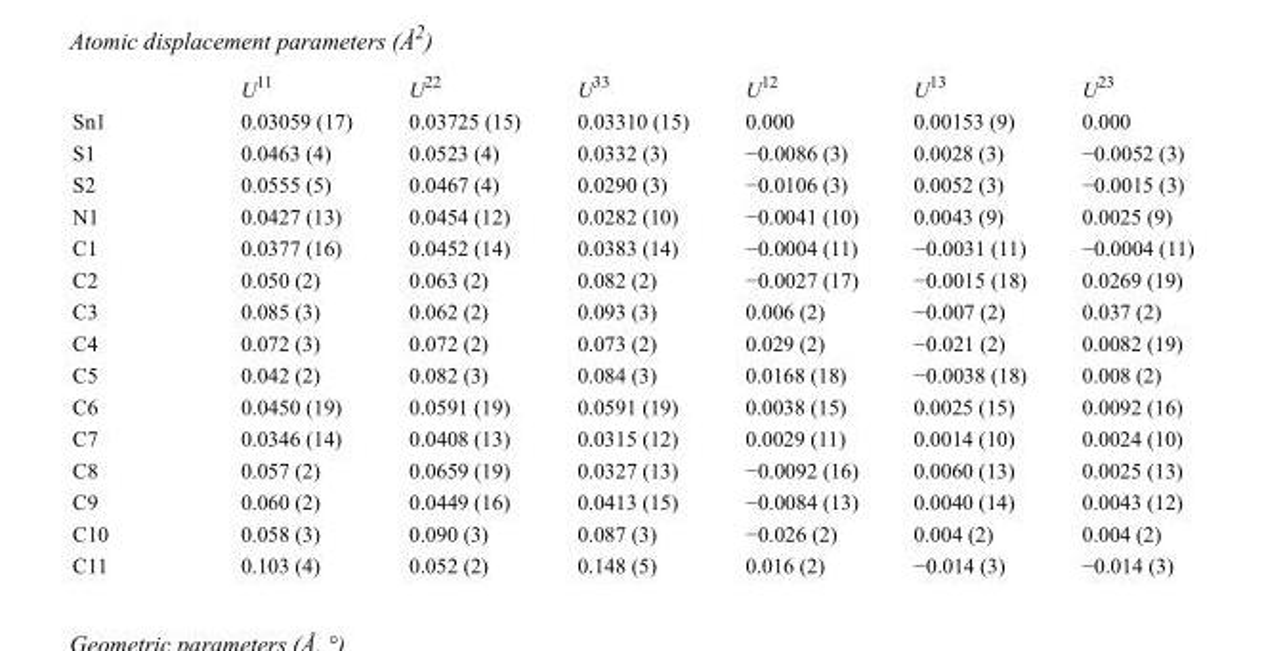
<table><thead><tr><td></td><td>U<sup>11</sup></td><td>U<sup>22</sup></td><td>U<sup>33</sup></td><td>U<sup>12</sup></td><td>U<sup>13</sup></td><td>U<sup>23</sup></td></tr></thead><tbody><tr><td>Sn1</td><td>0.03059 (17)</td><td>0.03725 (15)</td><td>0.03310 (15)</td><td>0.000</td><td>0.00153 (9)</td><td>0.000</td></tr><tr><td>S1</td><td>0.0463 (4)</td><td>0.0523 (4)</td><td>0.0332 (3)</td><td>−0.0086 (3)</td><td>0.0028 (3)</td><td>−0.0052 (3)</td></tr><tr><td>S2</td><td>0.0555 (5)</td><td>0.0467 (4)</td><td>0.0290 (3)</td><td>−0.0106 (3)</td><td>0.0052 (3)</td><td>−0.0015 (3)</td></tr><tr><td>N1</td><td>0.0427 (13)</td><td>0.0454 (12)</td><td>0.0282 (10)</td><td>−0.0041 (10)</td><td>0.0043 (9)</td><td>0.0025 (9)</td></tr><tr><td>C1</td><td>0.0377 (16)</td><td>0.0452 (14)</td><td>0.0383 (14)</td><td>−0.0004 (11)</td><td>−0.0031 (11)</td><td>−0.0004 (11)</td></tr><tr><td>C2</td><td>0.050 (2)</td><td>0.063 (2)</td><td>0.082 (2)</td><td>−0.0027 (17)</td><td>−0.0015 (18)</td><td>0.0269 (19)</td></tr><tr><td>C3</td><td>0.085 (3)</td><td>0.062 (2)</td><td>0.093 (3)</td><td>0.006 (2)</td><td>−0.007 (2)</td><td>0.037 (2)</td></tr><tr><td>C4</td><td>0.072 (3)</td><td>0.072 (2)</td><td>0.073 (2)</td><td>0.029 (2)</td><td>−0.021 (2)</td><td>0.0082 (19)</td></tr><tr><td>C5</td><td>0.042 (2)</td><td>0.082 (3)</td><td>0.084 (3)</td><td>0.0168 (18)</td><td>−0.0038 (18)</td><td>0.008 (2)</td></tr><tr><td>C6</td><td>0.0450 (19)</td><td>0.0591 (19)</td><td>0.0591 (19)</td><td>0.0038 (15)</td><td>0.0025 (15)</td><td>0.0092 (16)</td></tr><tr><td>C7</td><td>0.0346 (14)</td><td>0.0408 (13)</td><td>0.0315 (12)</td><td>0.0029 (11)</td><td>0.0014 (10)</td><td>0.0024 (10)</td></tr><tr><td>C8</td><td>0.057 (2)</td><td>0.0659 (19)</td><td>0.0327 (13)</td><td>−0.0092 (16)</td><td>0.0060 (13)</td><td>0.0025 (13)</td></tr><tr><td>C9</td><td>0.060 (2)</td><td>0.0449 (16)</td><td>0.0413 (15)</td><td>−0.0084 (13)</td><td>0.0040 (14)</td><td>0.0043 (12)</td></tr><tr><td>C10</td><td>0.058 (3)</td><td>0.090 (3)</td><td>0.087 (3)</td><td>−0.026 (2)</td><td>0.004 (2)</td><td>0.004 (2)</td></tr><tr><td>C11</td><td>0.103 (4)</td><td>0.052 (2)</td><td>0.148 (5)</td><td>0.016 (2)</td><td>−0.014 (3)</td><td>−0.014 (3)</td></tr></tbody></table>